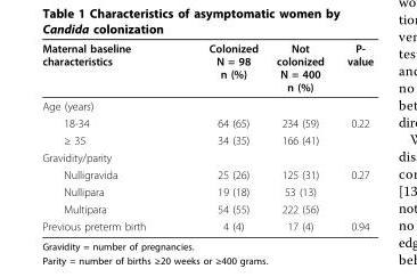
<table><thead><tr><td>Maternal baseline characteristics</td><td>Colonized N = 98 n (%)</td><td>Not colonized N = 400 n (%)</td><td>P- value</td></tr></thead><tbody><tr><td colspan="4">Age (years)</td></tr><tr><td>18-34</td><td>64 (65)</td><td>234 (59)</td><td>0.22</td></tr><tr><td>≥ 35</td><td>34 (35)</td><td>166 (41)</td><td></td></tr><tr><td colspan="4">Gravidity/parity</td></tr><tr><td>Nulligravida</td><td>25 (26)</td><td>125 (31)</td><td>0.27</td></tr><tr><td>Nullipara</td><td>19 (18)</td><td>53 (13)</td><td></td></tr><tr><td>Multipara</td><td>54 (55)</td><td>222 (56)</td><td></td></tr><tr><td>Previous preterm birth</td><td>4 (4)</td><td>17 (4)</td><td>0.94</td></tr></tbody></table>